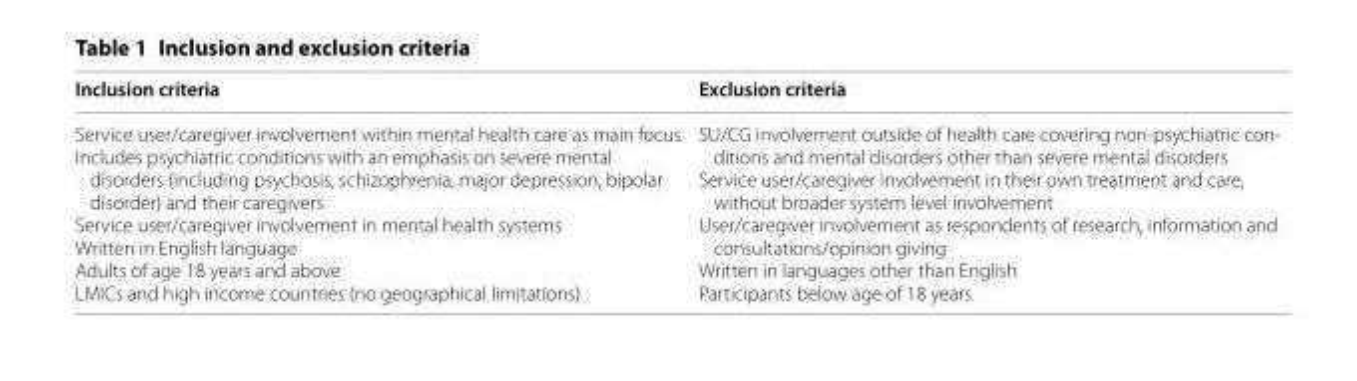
<table><thead><tr><td>Inclusion criteria</td><td>Exclusion criteria</td></tr></thead><tbody><tr><td>Service user/caregiver involvement within mental health care as main focus Includes psychiatric conditions with an emphasis on severe mental disorders (including psychosis, schizophrenia, major depression, bipolar disorder) and their caregivers Service user/caregiver involvement in mental health systems Written in English language Adults of age 18 years and above LMICs and high income countries (no geographical limitations)</td><td>SU/CG involvement outside of health care covering non-psychiatric con- ditions and mental disorders other than severe mental disorders Service user/caregiver involvement in their own treatment and care, without broader system level involvement User/caregiver involvement as respondents of research, information and consultations/opinion giving Written in languages other than English Participants below age of 18 years</td></tr></tbody></table>